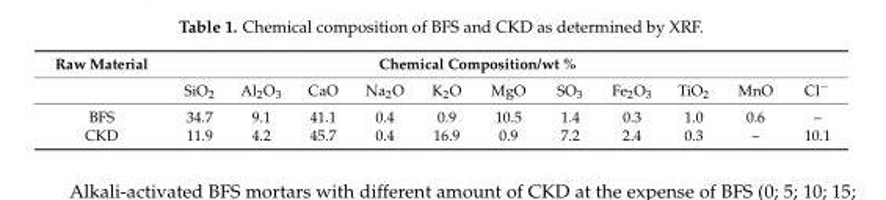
<table><thead><tr><td rowspan="2">Raw Material</td><td colspan="10">Chemical Composition/wt %</td><td rowspan="2">Cl<sup>−</sup></td></tr><tr><td>SiO<sub>2</sub></td><td>Al<sub>2</sub>O<sub>3</sub></td><td>CaO</td><td>Na<sub>2</sub>O</td><td>K<sub>2</sub>O</td><td>MgO</td><td>SO<sub>3</sub></td><td>Fe<sub>2</sub>O<sub>3</sub></td><td>TiO<sub>2</sub></td><td>MnO</td></tr></thead><tbody><tr><td>BFS</td><td>34.7</td><td>9.1</td><td>41.1</td><td>0.4</td><td>0.9</td><td>10.5</td><td>1.4</td><td>0.3</td><td>1.0</td><td>0.6</td><td>–</td></tr><tr><td>CKD</td><td>11.9</td><td>4.2</td><td>45.7</td><td>0.4</td><td>16.9</td><td>0.9</td><td>7.2</td><td>2.4</td><td>0.3</td><td>–</td><td>10.1</td></tr></tbody></table>